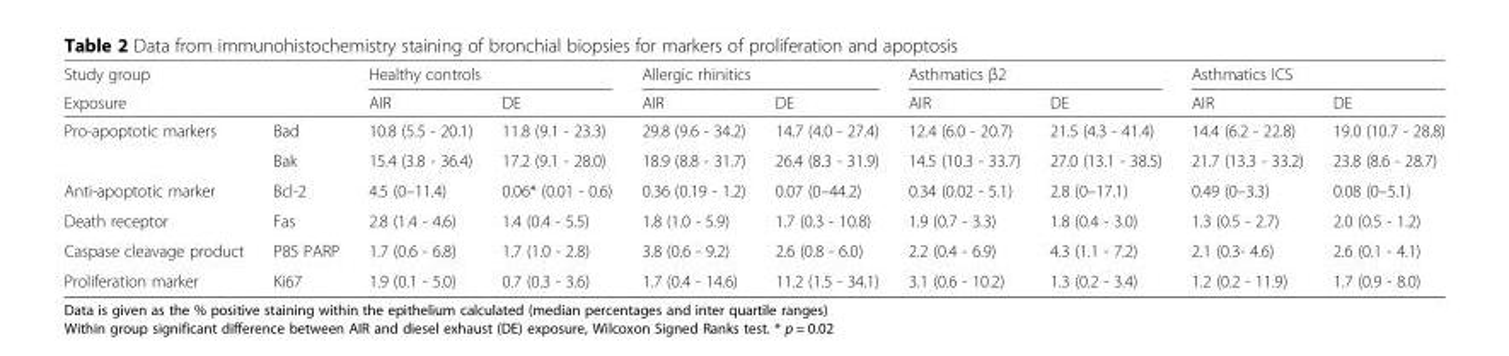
<table><thead><tr><td rowspan="2">Study group Exposure</td><td rowspan="2"></td><td colspan="2">Healthy controls</td><td colspan="2">Allergic rhinitics</td><td colspan="2">Asthmatics β2</td><td colspan="2">Asthmatics ICS</td></tr><tr><td>AIR</td><td>DE</td><td>AIR</td><td>DE</td><td>AIR</td><td>DE</td><td>AIR</td><td>DE</td></tr></thead><tbody><tr><td rowspan="2">Pro-apoptotic markers</td><td>Bad</td><td>10.8 (5.5 - 20.1)</td><td>11.8 (9.1 - 23.3)</td><td>29.8 (9.6 - 34.2)</td><td>14.7 (4.0 - 27.4)</td><td>12.4 (6.0 - 20.7)</td><td>21.5 (4.3 - 41.4)</td><td>14.4 (6.2 - 22.8)</td><td>19.0 (10.7 - 28.8)</td></tr><tr><td>Bak</td><td>15.4 (3.8 - 36.4)</td><td>17.2 (9.1 - 28.0)</td><td>18.9 (8.8 - 31.7)</td><td>26.4 (8.3 - 31.9)</td><td>14.5 (10.3 - 33.7)</td><td>27.0 (13.1 - 38.5)</td><td>21.7 (13.3 - 33.2)</td><td>23.8 (8.6 - 28.7)</td></tr><tr><td>Anti-apoptotic marker</td><td>Bcl-2</td><td>4.5 (0–11.4)</td><td>0.06* (0.01 - 0.6)</td><td>0.36 (0.19 - 1.2)</td><td>0.07 (0–44.2)</td><td>0.34 (0.02 - 5.1)</td><td>2.8 (0–17.1)</td><td>0.49 (0–3.3)</td><td>0.08 (0–5.1)</td></tr><tr><td>Death receptor</td><td>Fas</td><td>2.8 (1.4 - 4.6)</td><td>1.4 (0.4 - 5.5)</td><td>1.8 (1.0 - 5.9)</td><td>1.7 (0.3 - 10.8)</td><td>1.9 (0.7 - 3.3)</td><td>1.8 (0.4 - 3.0)</td><td>1.3 (0.5 - 2.7)</td><td>2.0 (0.5 - 1.2)</td></tr><tr><td>Caspase cleavage product</td><td>P85 PARP</td><td>1.7 (0.6 - 6.8)</td><td>1.7 (1.0 - 2.8)</td><td>3.8 (0.6 - 9.2)</td><td>2.6 (0.8 - 6.0)</td><td>2.2 (0.4 - 6.9)</td><td>4.3 (1.1 - 7.2)</td><td>2.1 (0.3- 4.6)</td><td>2.6 (0.1 - 4.1)</td></tr><tr><td>Proliferation marker</td><td>Ki67</td><td>1.9 (0.1 - 5.0)</td><td>0.7 (0.3 - 3.6)</td><td>1.7 (0.4 - 14.6)</td><td>11.2 (1.5 - 34.1)</td><td>3.1 (0.6 - 10.2)</td><td>1.3 (0.2 - 3.4)</td><td>1.2 (0.2 - 11.9)</td><td>1.7 (0.9 - 8.0)</td></tr></tbody></table>